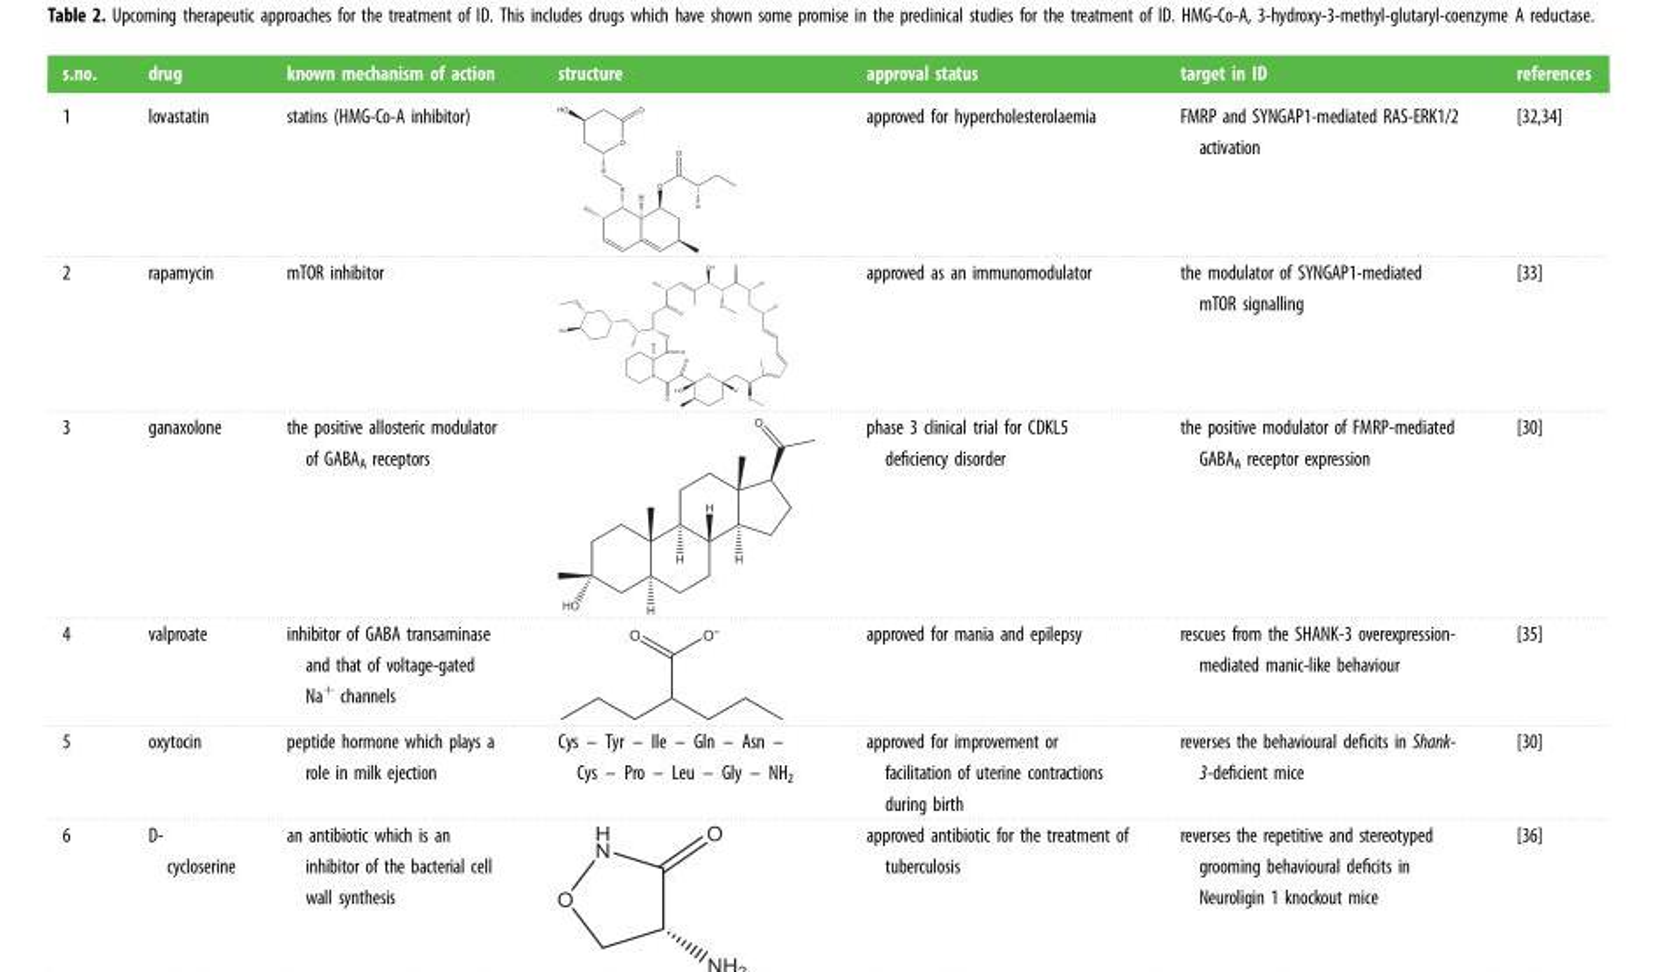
<table><thead><tr><td>s.no.</td><td>drug</td><td>known mechanism of action</td><td>structure</td><td>approval status</td><td>target in ID</td><td>references</td></tr></thead><tbody><tr><td>1</td><td>lovastatin</td><td>statins (HMG-Co-A inhibitor)</td><td></td><td>approved for hypercholesterolaemia</td><td>FMRP and SYNGAP1-mediated RAS-ERK1/2 activation</td><td>[32,34]</td></tr><tr><td>2</td><td>rapamycin</td><td>mTOR inhibitor</td><td></td><td>approved as an immunomodulator</td><td>the modulator of SYNGAP1-mediated mTOR signalling</td><td>[33]</td></tr><tr><td>3</td><td>ganaxolone</td><td>the positive allosteric modulator of GABA<sub>A</sub> receptors</td><td></td><td>phase 3 clinical trial for CDKL5 deficiency disorder</td><td>the positive modulator of FMRP-mediated GABA<sub>A</sub> receptor expression</td><td>[30]</td></tr><tr><td>4</td><td>valproate</td><td>inhibitor of GABA transaminase and that of voltage-gated Na<sup>+</sup> channels</td><td></td><td>approved for mania and epilepsy</td><td>rescues from the SHANK-3 overexpression- mediated manic-like behaviour</td><td>[35]</td></tr><tr><td>5</td><td>oxytocin</td><td>peptide hormone which plays a role in milk ejection</td><td>Cys – Tyr – Ile – Gln – Asn – Cys – Pro – Leu – Gly – NH<sub>2</sub></td><td>approved for improvement or facilitation of uterine contractions during birth</td><td>reverses the behavioural deficits in Shank- 3-deficient mice</td><td>[30]</td></tr><tr><td>6</td><td>D- cycloserine</td><td>an antibiotic which is an inhibitor of the bacterial cell wall synthesis</td><td></td><td>approved antibiotic for the treatment of tuberculosis</td><td>reverses the repetitive and stereotyped grooming behavioural deficits in Neuroligin 1 knockout mice</td><td>[36]</td></tr></tbody></table>